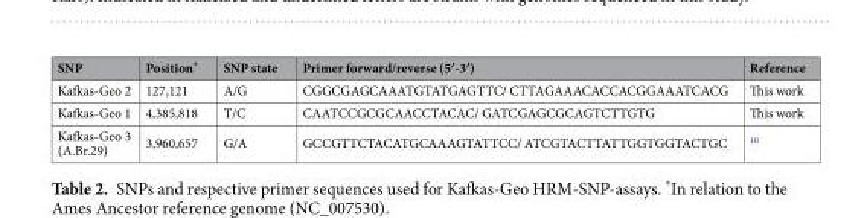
<table><thead><tr><td>SNP</td><td>Position*</td><td>SNP state</td><td>Primer forward/reverse (5′-3′)</td><td>Reference</td></tr></thead><tbody><tr><td>Kafkas-Geo 2</td><td>127,121</td><td>A/G</td><td>CGGCGAGCAAATGTATGAGTTC/ CTTAGAAACACCACGGAAATCACG</td><td>This work</td></tr><tr><td>Kafkas-Geo 1</td><td>4,385,818</td><td>T/C</td><td>CAATCCGCGCAACCTACAC/ GATCGAGCGCAGTCTTGTG</td><td>This work</td></tr><tr><td>Kafkas-Geo 3 (A.Br.29)</td><td>3,960,657</td><td>G/A</td><td>GCCGTTCTACATGCAAAGTATTCC/ ATCGTACTTATTGGTGGTACTGC</td><td><sup>10</sup></td></tr></tbody></table>